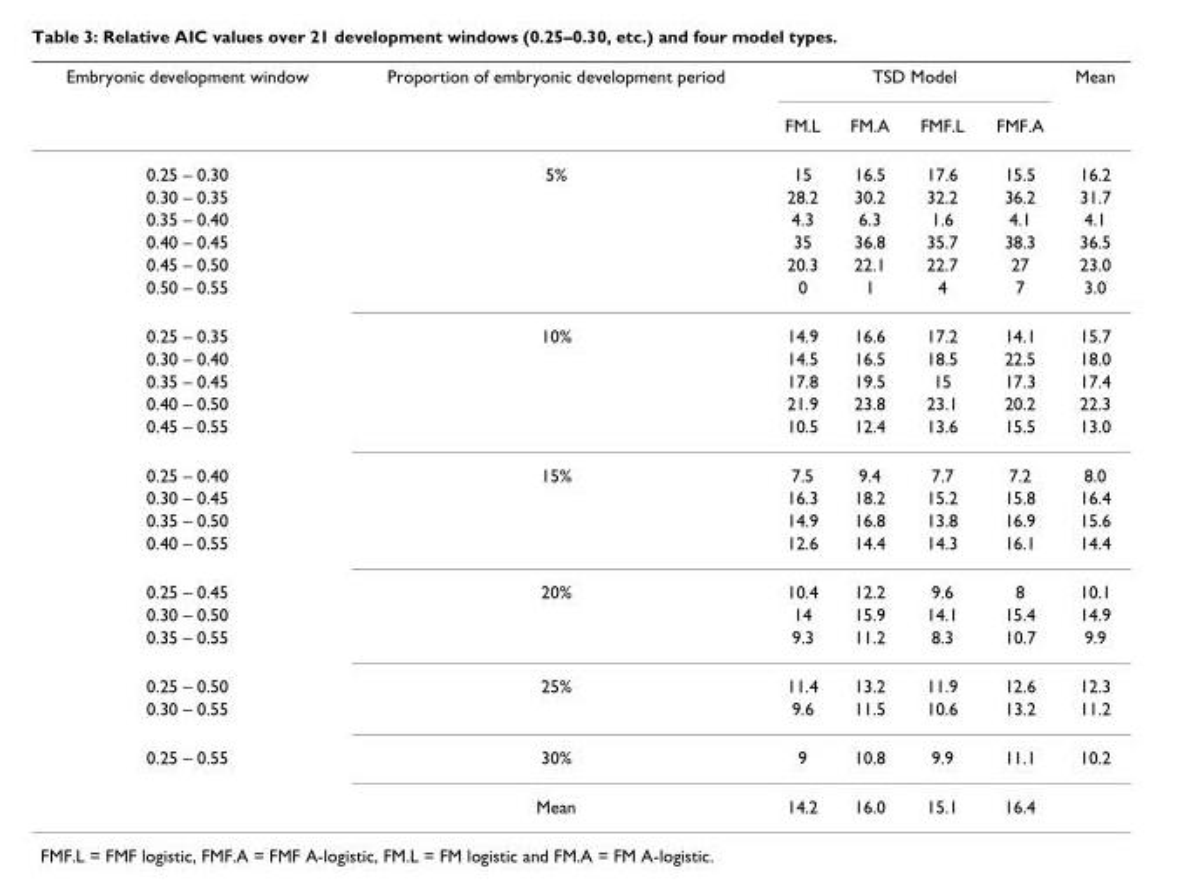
<table><thead><tr><td rowspan="2">Embryonic development window</td><td rowspan="2">Proportion of embryonic development period</td><td colspan="4">TSD Model</td><td rowspan="2">Mean</td></tr><tr><td>FM.L</td><td>FM.A</td><td>FMF.L</td><td>FMF.A</td></tr></thead><tbody><tr><td>0.25 – 0.30</td><td>5%</td><td>15</td><td>16.5</td><td>17.6</td><td>15.5</td><td>16.2</td></tr><tr><td>0.30 – 0.35</td><td></td><td>28.2</td><td>30.2</td><td>32.2</td><td>36.2</td><td>31.7</td></tr><tr><td>0.35 – 0.40</td><td></td><td>4.3</td><td>6.3</td><td>1.6</td><td>4.1</td><td>4.1</td></tr><tr><td>0.40 – 0.45</td><td></td><td>35</td><td>36.8</td><td>35.7</td><td>38.3</td><td>36.5</td></tr><tr><td>0.45 – 0.50</td><td></td><td>20.3</td><td>22.1</td><td>22.7</td><td>27</td><td>23.0</td></tr><tr><td>0.50 – 0.55</td><td></td><td>0</td><td>1</td><td>4</td><td>7</td><td>3.0</td></tr><tr><td>0.25 – 0.35</td><td>10%</td><td>14.9</td><td>16.6</td><td>17.2</td><td>14.1</td><td>15.7</td></tr><tr><td>0.30 – 0.40</td><td></td><td>14.5</td><td>16.5</td><td>18.5</td><td>22.5</td><td>18.0</td></tr><tr><td>0.35 – 0.45</td><td></td><td>17.8</td><td>19.5</td><td>15</td><td>17.3</td><td>17.4</td></tr><tr><td>0.40 – 0.50</td><td></td><td>21.9</td><td>23.8</td><td>23.1</td><td>20.2</td><td>22.3</td></tr><tr><td>0.45 – 0.55</td><td></td><td>10.5</td><td>12.4</td><td>13.6</td><td>15.5</td><td>13.0</td></tr><tr><td>0.25 – 0.40</td><td>15%</td><td>7.5</td><td>9.4</td><td>7.7</td><td>7.2</td><td>8.0</td></tr><tr><td>0.30 – 0.45</td><td></td><td>16.3</td><td>18.2</td><td>15.2</td><td>15.8</td><td>16.4</td></tr><tr><td>0.35 – 0.50</td><td></td><td>14.9</td><td>16.8</td><td>13.8</td><td>16.9</td><td>15.6</td></tr><tr><td>0.40 – 0.55</td><td></td><td>12.6</td><td>14.4</td><td>14.3</td><td>16.1</td><td>14.4</td></tr><tr><td>0.25 – 0.45</td><td>20%</td><td>10.4</td><td>12.2</td><td>9.6</td><td>8</td><td>10.1</td></tr><tr><td>0.30 – 0.50</td><td></td><td>14</td><td>15.9</td><td>14.1</td><td>15.4</td><td>14.9</td></tr><tr><td>0.35 – 0.55</td><td></td><td>9.3</td><td>11.2</td><td>8.3</td><td>10.7</td><td>9.9</td></tr><tr><td>0.25 – 0.50</td><td>25%</td><td>11.4</td><td>13.2</td><td>11.9</td><td>12.6</td><td>12.3</td></tr><tr><td>0.30 – 0.55</td><td></td><td>9.6</td><td>11.5</td><td>10.6</td><td>13.2</td><td>11.2</td></tr><tr><td rowspan="2">0.25 – 0.55</td><td>30%</td><td>9</td><td>10.8</td><td>9.9</td><td>11.1</td><td>10.2</td></tr><tr><td>Mean</td><td>14.2</td><td>16.0</td><td>15.1</td><td>16.4</td><td></td></tr></tbody></table>